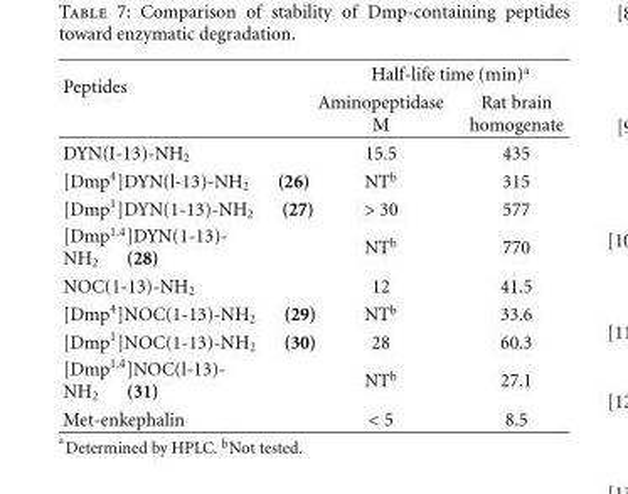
<table><tbody><tr><td rowspan="2">Peptides</td><td colspan="2">Half-life time (min)<sup>a</sup></td></tr><tr><td>Aminopeptidase M</td><td>Rat brain homogenate</td></tr><tr><td>DYN(I-13)-NH<sub>2</sub></td><td>15.5</td><td>435</td></tr><tr><td>[Dmp<sup>4</sup>]DYN(l-13)-NH<sub>2</sub> (26)</td><td>NT<sup>b</sup></td><td>315</td></tr><tr><td>[Dmp<sup>1</sup>]DYN(1-13)-NH<sub>2</sub> (27)</td><td>&gt; 30</td><td>577</td></tr><tr><td>[Dmp<sup>1,4</sup>]DYN(1-13)- NH<sub>2</sub> (28)</td><td>NT<sup>b</sup></td><td>770</td></tr><tr><td>NOC(1-13)-NH<sub>2</sub></td><td>12</td><td>41.5</td></tr><tr><td>[Dmp<sup>4</sup>]NOC(1-13)-NH<sub>2</sub> (29)</td><td>NT<sup>b</sup></td><td>33.6</td></tr><tr><td>[Dmp<sup>1</sup>]NOC(1-13)-NH<sub>2</sub> (30)</td><td>28</td><td>60.3</td></tr><tr><td>[Dmp<sup>1,4</sup>]NOC(l-13)- NH<sub>2</sub> (31)</td><td>NT<sup>b</sup></td><td>27.1</td></tr><tr><td>Met-enkephalin</td><td>&lt; 5</td><td>8.5</td></tr></tbody></table>